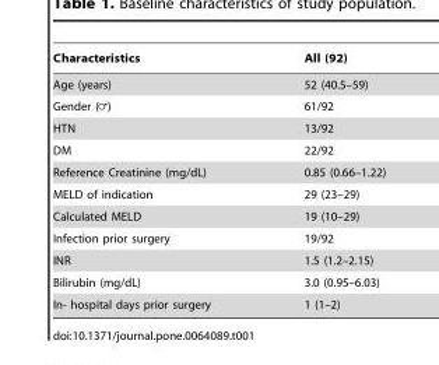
<table><thead><tr><td>Characteristics</td><td>All (92)</td></tr></thead><tbody><tr><td>Age (years)</td><td>52 (40.5–59)</td></tr><tr><td>Gender (=)</td><td>61/92</td></tr><tr><td>HTN</td><td>13/92</td></tr><tr><td>DM</td><td>22/92</td></tr><tr><td>Reference Creatinine (mg/dL)</td><td>0.85 (0.66–1.22)</td></tr><tr><td>MELD of indication</td><td>29 (23–29)</td></tr><tr><td>Calculated MELD</td><td>19 (10–29)</td></tr><tr><td>Infection prior surgery</td><td>19/92</td></tr><tr><td>INR</td><td>1.5 (1.2–2.15)</td></tr><tr><td>Bilirubin (mg/dL)</td><td>3.0 (0.95–6.03)</td></tr><tr><td>In- hospital days prior surgery</td><td>1 (1–2)</td></tr></tbody></table>